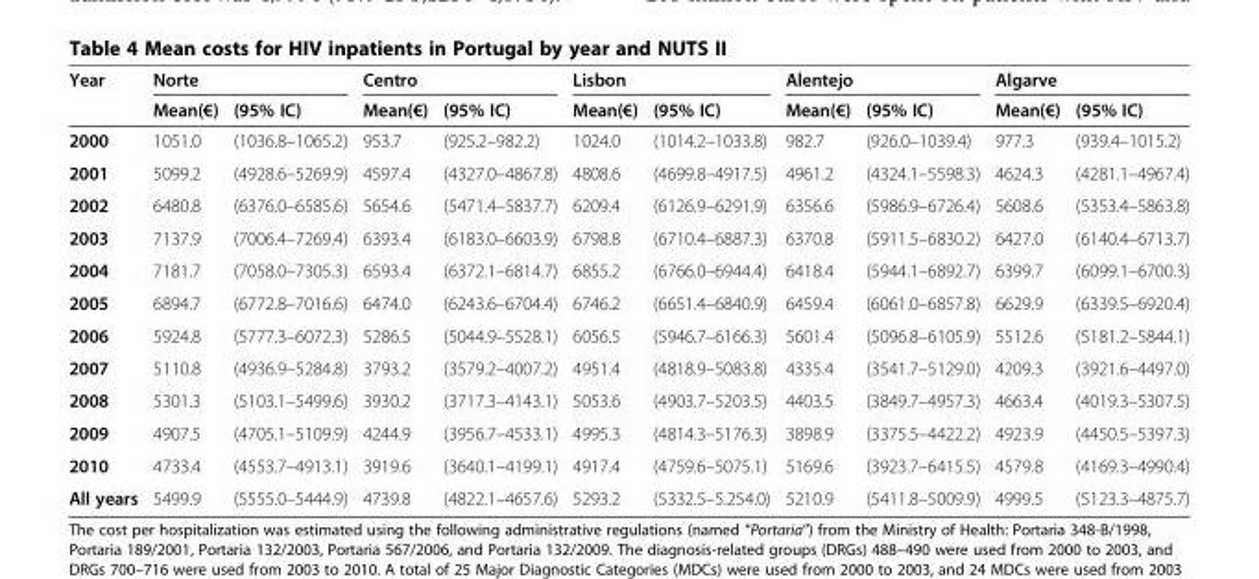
<table><thead><tr><td rowspan="2">Year</td><td colspan="2">Norte</td><td colspan="2">Centro</td><td colspan="2">Lisbon</td><td colspan="2">Alentejo</td><td colspan="2">Algarve</td></tr><tr><td>Mean(€)</td><td>(95% IC)</td><td>Mean(€)</td><td>(95% IC)</td><td>Mean(€)</td><td>(95% IC)</td><td>Mean(€)</td><td>(95% IC)</td><td>Mean(€)</td><td>(95% IC)</td></tr></thead><tbody><tr><td>2000</td><td>1051.0</td><td>(1036.8–1065.2)</td><td>953.7</td><td>(925.2–982.2)</td><td>1024.0</td><td>(1014.2–1033.8)</td><td>982.7</td><td>(926.0–1039.4)</td><td>977.3</td><td>(939.4–1015.2)</td></tr><tr><td>2001</td><td>5099.2</td><td>(4928.6–5269.9)</td><td>4597.4</td><td>(4327.0–4867.8)</td><td>4808.6</td><td>(4699.8–4917.5)</td><td>4961.2</td><td>(4324.1–5598.3)</td><td>4624.3</td><td>(4281.1–4967.4)</td></tr><tr><td>2002</td><td>6480.8</td><td>(6376.0–6585.6)</td><td>5654.6</td><td>(5471.4–5837.7)</td><td>6209.4</td><td>(6126.9–6291.9)</td><td>6356.6</td><td>(5986.9–6726.4)</td><td>5608.6</td><td>(5353.4–5863.8)</td></tr><tr><td>2003</td><td>7137.9</td><td>(7006.4–7269.4)</td><td>6393.4</td><td>(6183.0–6603.9)</td><td>6798.8</td><td>(6710.4–6887.3)</td><td>6370.8</td><td>(5911.5–6830.2)</td><td>6427.0</td><td>(6140.4–6713.7)</td></tr><tr><td>2004</td><td>7181.7</td><td>(7058.0–7305.3)</td><td>6593.4</td><td>(6372.1–6814.7)</td><td>6855.2</td><td>(6766.0–6944.4)</td><td>6418.4</td><td>(5944.1–6892.7)</td><td>6399.7</td><td>(6099.1–6700.3)</td></tr><tr><td>2005</td><td>6894.7</td><td>(6772.8–7016.6)</td><td>6474.0</td><td>(6243.6–6704.4)</td><td>6746.2</td><td>(6651.4–6840.9)</td><td>6459.4</td><td>(6061.0–6857.8)</td><td>6629.9</td><td>(6339.5–6920.4)</td></tr><tr><td>2006</td><td>5924.8</td><td>(5777.3–6072.3)</td><td>5286.5</td><td>(5044.9–5528.1)</td><td>6056.5</td><td>(5946.7–6166.3)</td><td>5601.4</td><td>(5096.8–6105.9)</td><td>5512.6</td><td>(5181.2–5844.1)</td></tr><tr><td>2007</td><td>5110.8</td><td>(4936.9–5284.8)</td><td>3793.2</td><td>(3579.2–4007.2)</td><td>4951.4</td><td>(4818.9–5083.8)</td><td>4335.4</td><td>(3541.7–5129.0)</td><td>4209.3</td><td>(3921.6–4497.0)</td></tr><tr><td>2008</td><td>5301.3</td><td>(5103.1–5499.6)</td><td>3930.2</td><td>(3717.3–4143.1)</td><td>5053.6</td><td>(4903.7–5203.5)</td><td>4403.5</td><td>(3849.7–4957.3)</td><td>4663.4</td><td>(4019.3–5307.5)</td></tr><tr><td>2009</td><td>4907.5</td><td>(4705.1–5109.9)</td><td>4244.9</td><td>(3956.7–4533.1)</td><td>4995.3</td><td>(4814.3–5176.3)</td><td>3898.9</td><td>(3375.5–4422.2)</td><td>4923.9</td><td>(4450.5–5397.3)</td></tr><tr><td>2010</td><td>4733.4</td><td>(4553.7–4913.1)</td><td>3919.6</td><td>(3640.1–4199.1)</td><td>4917.4</td><td>(4759.6–5075.1)</td><td>5169.6</td><td>(3923.7–6415.5)</td><td>4579.8</td><td>(4169.3–4990.4)</td></tr><tr><td>All years</td><td>5499.9</td><td>(5555.0–5444.9)</td><td>4739.8</td><td>(4822.1–4657.6)</td><td>5293.2</td><td>(5332.5–5.254.0)</td><td>5210.9</td><td>(5411.8–5009.9)</td><td>4999.5</td><td>(5123.3–4875.7)</td></tr></tbody></table>